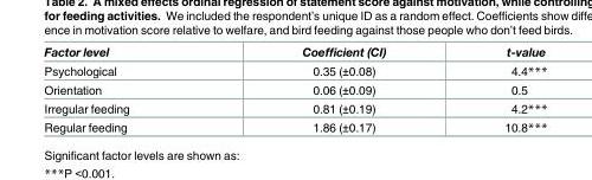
<table><thead><tr><td>Factor level</td><td>Coefficient (CI)</td><td>t-value</td></tr></thead><tbody><tr><td>Psychological</td><td>0.35 (±0.08)</td><td>4.4***</td></tr><tr><td>Orientation</td><td>0.06 (±0.09)</td><td>0.5</td></tr><tr><td>Irregular feeding</td><td>0.81 (±0.19)</td><td>4.2***</td></tr><tr><td>Regular feeding</td><td>1.86 (±0.17)</td><td>10.8***</td></tr></tbody></table>